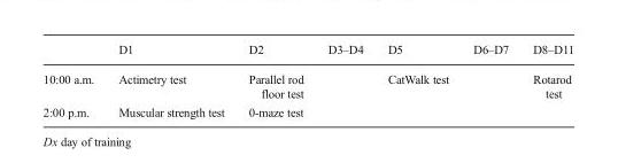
<table><thead><tr><td></td><td>D1</td><td>D2</td><td>D3–D4</td><td>D5</td><td>D6–D7</td><td>D8–D11</td></tr></thead><tbody><tr><td>10:00 a.m.</td><td>Actimetry test</td><td>Parallel rod floor test</td><td rowspan="2"></td><td>CatWalk test</td><td rowspan="2"></td><td>Rotarod test</td></tr><tr><td>2:00 p.m.</td><td>Muscular strength test</td><td>0-maze test</td><td></td><td></td></tr></tbody></table>